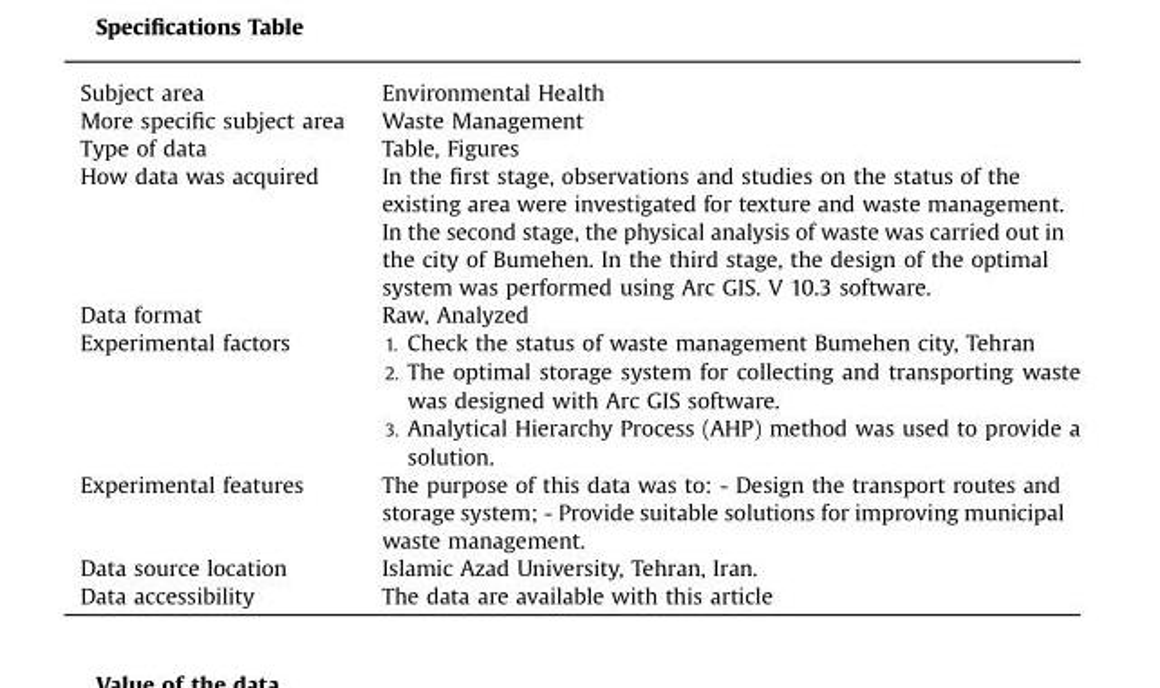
<table><tbody><tr><td>Subject area</td><td>Environmental Health</td></tr><tr><td>More specific subject area</td><td>Waste Management</td></tr><tr><td>Type of data</td><td>Table, Figures</td></tr><tr><td>How data was acquired</td><td>In the first stage, observations and studies on the status of the existing area were investigated for texture and waste management. In the second stage, the physical analysis of waste was carried out in the city of Bumehen. In the third stage, the design of the optimal system was performed using Arc GIS. V 10.3 software.</td></tr><tr><td>Data format</td><td>Raw, Analyzed</td></tr><tr><td>Experimental factors</td><td>1. Check the status of waste management Bumehen city, Tehran 2. The optimal storage system for collecting and transporting waste was designed with Arc GIS software. 3. Analytical Hierarchy Process (AHP) method was used to provide a solution.</td></tr><tr><td>Experimental features</td><td>The purpose of this data was to: - Design the transport routes and storage system; - Provide suitable solutions for improving municipal waste management.</td></tr><tr><td>Data source location</td><td>Islamic Azad University, Tehran, Iran.</td></tr><tr><td>Data accessibility</td><td>The data are available with this article</td></tr></tbody></table>